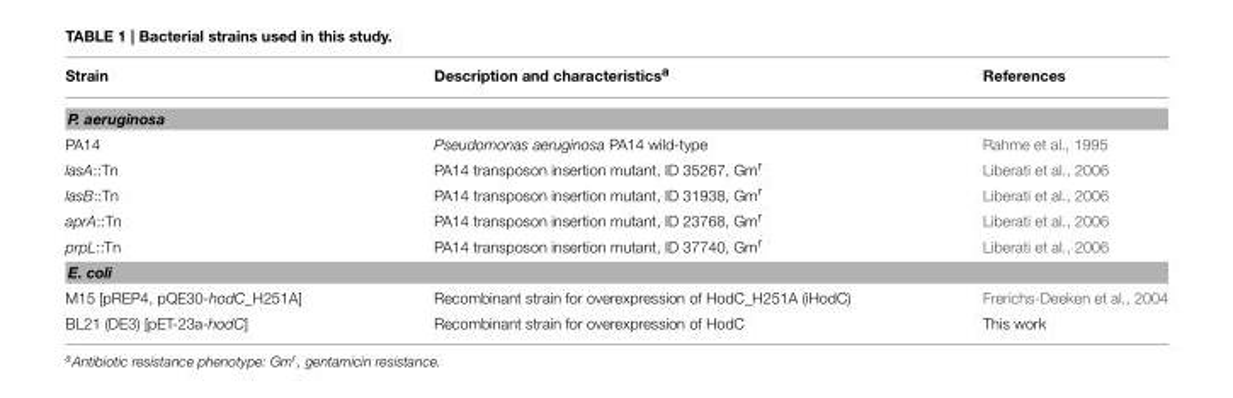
<table><thead><tr><td>Strain</td><td>Description and characteristics<sup>a</sup></td><td>References</td></tr></thead><tbody><tr><td colspan="3">P. aeruginosa</td></tr><tr><td>PA14</td><td>Pseudomonas aeruginosa PA14 wild-type</td><td>Rahme et al., 1995</td></tr><tr><td>lasA::Tn</td><td>PA14 transposon insertion mutant, ID 35267, Gm<sup>r</sup></td><td>Liberati et al., 2006</td></tr><tr><td>lasB::Tn</td><td>PA14 transposon insertion mutant, ID 31938, Gm<sup>r</sup></td><td>Liberati et al., 2006</td></tr><tr><td>aprA::Tn</td><td>PA14 transposon insertion mutant, ID 23768, Gm<sup>r</sup></td><td>Liberati et al., 2006</td></tr><tr><td>prpL::Tn</td><td>PA14 transposon insertion mutant, ID 37740, Gm<sup>r</sup></td><td>Liberati et al., 2006</td></tr><tr><td colspan="3">E. coli</td></tr><tr><td>M15 [pREP4, pQE30-hodC_H251A]</td><td>Recombinant strain for overexpression of HodC_H251A (iHodC)</td><td>Frerichs-Deeken et al., 2004</td></tr><tr><td>BL21 (DE3) [pET-23a-hodC]</td><td>Recombinant strain for overexpression of HodC</td><td>This work</td></tr></tbody></table>